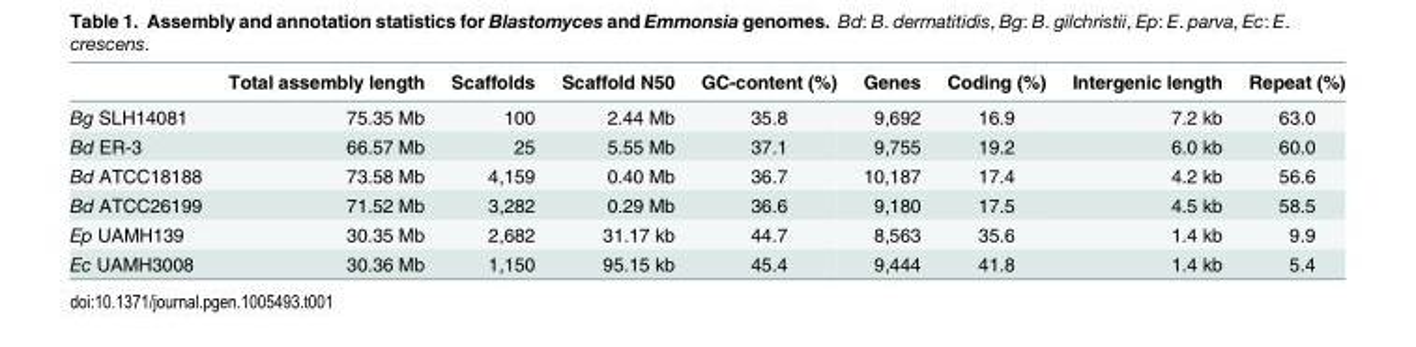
<table><thead><tr><td></td><td>Total assembly length</td><td>Scaffolds</td><td>Scaffold N50</td><td>GC-content (%)</td><td>Genes</td><td>Coding (%)</td><td>Intergenic length</td><td>Repeat (%)</td></tr></thead><tbody><tr><td>Bg SLH14081</td><td>75.35 Mb</td><td>100</td><td>2.44 Mb</td><td>35.8</td><td>9,692</td><td>16.9</td><td>7.2 kb</td><td>63.0</td></tr><tr><td>Bd ER-3</td><td>66.57 Mb</td><td>25</td><td>5.55 Mb</td><td>37.1</td><td>9,755</td><td>19.2</td><td>6.0 kb</td><td>60.0</td></tr><tr><td>Bd ATCC18188</td><td>73.58 Mb</td><td>4,159</td><td>0.40 Mb</td><td>36.7</td><td>10,187</td><td>17.4</td><td>4.2 kb</td><td>56.6</td></tr><tr><td>Bd ATCC26199</td><td>71.52 Mb</td><td>3,282</td><td>0.29 Mb</td><td>36.6</td><td>9,180</td><td>17.5</td><td>4.5 kb</td><td>58.5</td></tr><tr><td>Ep UAMH139</td><td>30.35 Mb</td><td>2,682</td><td>31.17 kb</td><td>44.7</td><td>8,563</td><td>35.6</td><td>1.4 kb</td><td>9.9</td></tr><tr><td>Ec UAMH3008</td><td>30.36 Mb</td><td>1,150</td><td>95.15 kb</td><td>45.4</td><td>9,444</td><td>41.8</td><td>1.4 kb</td><td>5.4</td></tr></tbody></table>